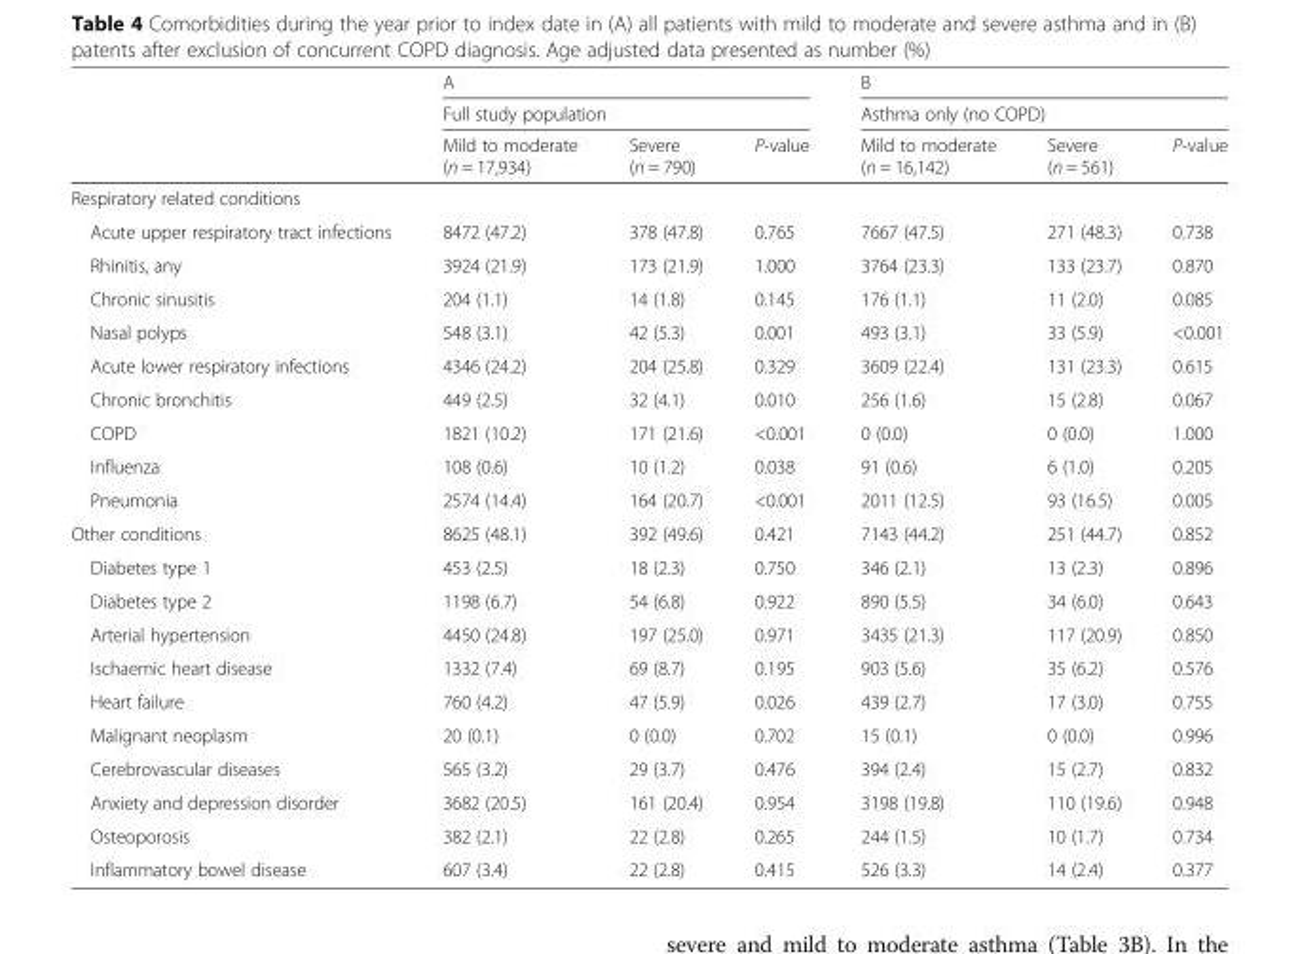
<table><thead><tr><td rowspan="3"></td><td rowspan="2" colspan="3">A Full study population</td><td rowspan="2" colspan="3">B Asthma only (no COPD)</td></tr><tr></tr><tr><td>Mild to moderate (n = 17,934)</td><td>Severe (n = 790)</td><td>P-value</td><td>Mild to moderate (n = 16,142)</td><td>Severe (n = 561)</td><td>P-value</td></tr></thead><tbody><tr><td colspan="7">Respiratory related conditions</td></tr><tr><td>Acute upper respiratory tract infections</td><td>8472 (47.2)</td><td>378 (47.8)</td><td>0.765</td><td>7667 (47.5)</td><td>271 (48.3)</td><td>0.738</td></tr><tr><td>Rhinitis, any</td><td>3924 (21.9)</td><td>173 (21.9)</td><td>1.000</td><td>3764 (23.3)</td><td>133 (23.7)</td><td>0.870</td></tr><tr><td>Chronic sinusitis</td><td>204 (1.1)</td><td>14 (1.8)</td><td>0.145</td><td>176 (1.1)</td><td>11 (2.0)</td><td>0.085</td></tr><tr><td>Nasal polyps</td><td>548 (3.1)</td><td>42 (5.3)</td><td>0.001</td><td>493 (3.1)</td><td>33 (5.9)</td><td>&lt;0.001</td></tr><tr><td>Acute lower respiratory infections</td><td>4346 (24.2)</td><td>204 (25.8)</td><td>0.329</td><td>3609 (22.4)</td><td>131 (23.3)</td><td>0.615</td></tr><tr><td>Chronic bronchitis</td><td>449 (2.5)</td><td>32 (4.1)</td><td>0.010</td><td>256 (1.6)</td><td>15 (2.8)</td><td>0.067</td></tr><tr><td>COPD</td><td>1821 (10.2)</td><td>171 (21.6)</td><td>&lt;0.001</td><td>0 (0.0)</td><td>0 (0.0)</td><td>1.000</td></tr><tr><td>Influenza</td><td>108 (0.6)</td><td>10 (1.2)</td><td>0.038</td><td>91 (0.6)</td><td>6 (1.0)</td><td>0.205</td></tr><tr><td>Pneumonia</td><td>2574 (14.4)</td><td>164 (20.7)</td><td>&lt;0.001</td><td>2011 (12.5)</td><td>93 (16.5)</td><td>0.005</td></tr><tr><td>Other conditions</td><td>8625 (48.1)</td><td>392 (49.6)</td><td>0.421</td><td>7143 (44.2)</td><td>251 (44.7)</td><td>0.852</td></tr><tr><td>Diabetes type 1</td><td>453 (2.5)</td><td>18 (2.3)</td><td>0.750</td><td>346 (2.1)</td><td>13 (2.3)</td><td>0.896</td></tr><tr><td>Diabetes type 2</td><td>1198 (6.7)</td><td>54 (6.8)</td><td>0.922</td><td>890 (5.5)</td><td>34 (6.0)</td><td>0.643</td></tr><tr><td>Arterial hypertension</td><td>4450 (24.8)</td><td>197 (25.0)</td><td>0.971</td><td>3435 (21.3)</td><td>117 (20.9)</td><td>0.850</td></tr><tr><td>Ischaemic heart disease</td><td>1332 (7.4)</td><td>69 (8.7)</td><td>0.195</td><td>903 (5.6)</td><td>35 (6.2)</td><td>0.576</td></tr><tr><td>Heart failure</td><td>760 (4.2)</td><td>47 (5.9)</td><td>0.026</td><td>439 (2.7)</td><td>17 (3.0)</td><td>0.755</td></tr><tr><td>Malignant neoplasm</td><td>20 (0.1)</td><td>0 (0.0)</td><td>0.702</td><td>15 (0.1)</td><td>0 (0.0)</td><td>0.996</td></tr><tr><td>Cerebrovascular diseases</td><td>565 (3.2)</td><td>29 (3.7)</td><td>0.476</td><td>394 (2.4)</td><td>15 (2.7)</td><td>0.832</td></tr><tr><td>Anxiety and depression disorder</td><td>3682 (20.5)</td><td>161 (20.4)</td><td>0.954</td><td>3198 (19.8)</td><td>110 (19.6)</td><td>0.948</td></tr><tr><td>Osteoporosis</td><td>382 (2.1)</td><td>22 (2.8)</td><td>0.265</td><td>244 (1.5)</td><td>10 (1.7)</td><td>0.734</td></tr><tr><td>Inflammatory bowel disease</td><td>607 (3.4)</td><td>22 (2.8)</td><td>0.415</td><td>526 (3.3)</td><td>14 (2.4)</td><td>0.377</td></tr></tbody></table>